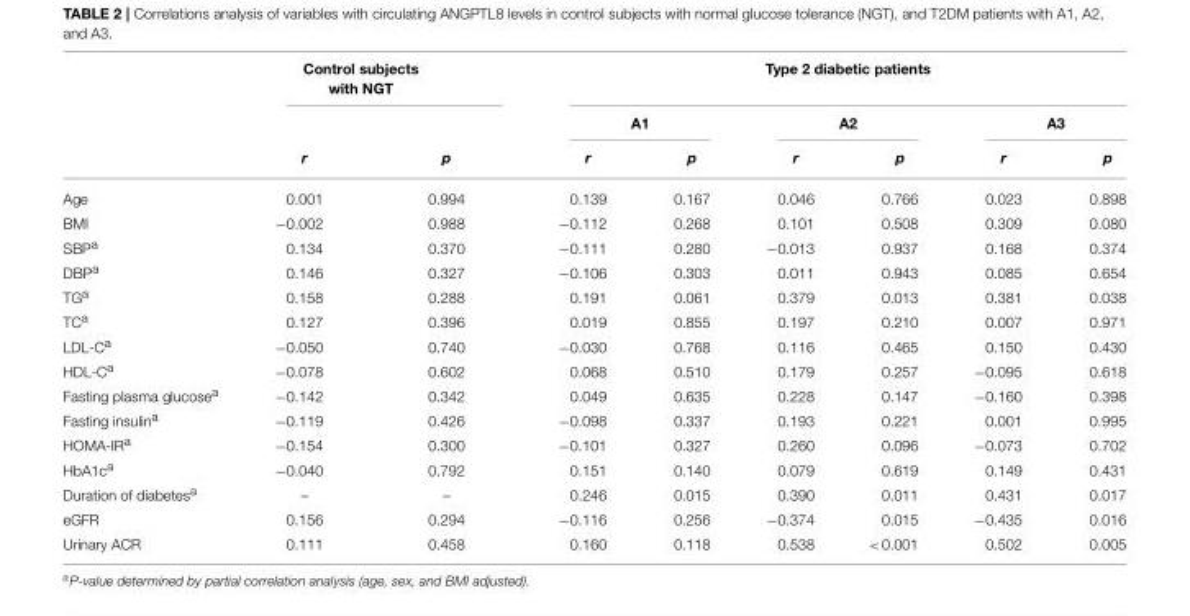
<table><thead><tr><td rowspan="3"></td><td colspan="2">Control subjects with NGT</td><td colspan="6">Type 2 diabetic patients</td></tr><tr><td rowspan="2">r</td><td rowspan="2">p</td><td colspan="2">A1</td><td colspan="2">A2</td><td colspan="2">A3</td></tr><tr><td>r</td><td>p</td><td>r</td><td>p</td><td>r</td><td>p</td></tr></thead><tbody><tr><td>Age</td><td>0.001</td><td>0.994</td><td>0.139</td><td>0.167</td><td>0.046</td><td>0.766</td><td>0.023</td><td>0.898</td></tr><tr><td>BMI</td><td>−0.002</td><td>0.988</td><td>−0.112</td><td>0.268</td><td>0.101</td><td>0.508</td><td>0.309</td><td>0.080</td></tr><tr><td>SBP<sup>a</sup></td><td>0.134</td><td>0.370</td><td>−0.111</td><td>0.280</td><td>−0.013</td><td>0.937</td><td>0.168</td><td>0.374</td></tr><tr><td>DBP<sup>a</sup></td><td>0.146</td><td>0.327</td><td>−0.106</td><td>0.303</td><td>0.011</td><td>0.943</td><td>0.085</td><td>0.654</td></tr><tr><td>TG<sup>a</sup></td><td>0.158</td><td>0.288</td><td>0.191</td><td>0.061</td><td>0.379</td><td>0.013</td><td>0.381</td><td>0.038</td></tr><tr><td>TC<sup>a</sup></td><td>0.127</td><td>0.396</td><td>0.019</td><td>0.855</td><td>0.197</td><td>0.210</td><td>0.007</td><td>0.971</td></tr><tr><td>LDL-C<sup>a</sup></td><td>−0.050</td><td>0.740</td><td>−0.030</td><td>0.768</td><td>0.116</td><td>0.465</td><td>0.150</td><td>0.430</td></tr><tr><td>HDL-C<sup>a</sup></td><td>−0.078</td><td>0.602</td><td>0.068</td><td>0.510</td><td>0.179</td><td>0.257</td><td>−0.095</td><td>0.618</td></tr><tr><td>Fasting plasma glucose<sup>a</sup></td><td>−0.142</td><td>0.342</td><td>0.049</td><td>0.635</td><td>0.228</td><td>0.147</td><td>−0.160</td><td>0.398</td></tr><tr><td>Fasting insulin<sup>a</sup></td><td>−0.119</td><td>0.426</td><td>−0.098</td><td>0.337</td><td>0.193</td><td>0.221</td><td>0.001</td><td>0.995</td></tr><tr><td>HOMA-IR<sup>a</sup></td><td>−0.154</td><td>0.300</td><td>−0.101</td><td>0.327</td><td>0.260</td><td>0.096</td><td>−0.073</td><td>0.702</td></tr><tr><td>HbA1c<sup>a</sup></td><td>−0.040</td><td>0.792</td><td>0.151</td><td>0.140</td><td>0.079</td><td>0.619</td><td>0.149</td><td>0.431</td></tr><tr><td>Duration of diabetes<sup>a</sup></td><td>–</td><td>–</td><td>0.246</td><td>0.015</td><td>0.390</td><td>0.011</td><td>0.431</td><td>0.017</td></tr><tr><td>eGFR</td><td>0.156</td><td>0.294</td><td>−0.116</td><td>0.256</td><td>−0.374</td><td>0.015</td><td>−0.435</td><td>0.016</td></tr><tr><td>Urinary ACR</td><td>0.111</td><td>0.458</td><td>0.160</td><td>0.118</td><td>0.538</td><td>&lt;0.001</td><td>0.502</td><td>0.005</td></tr></tbody></table>